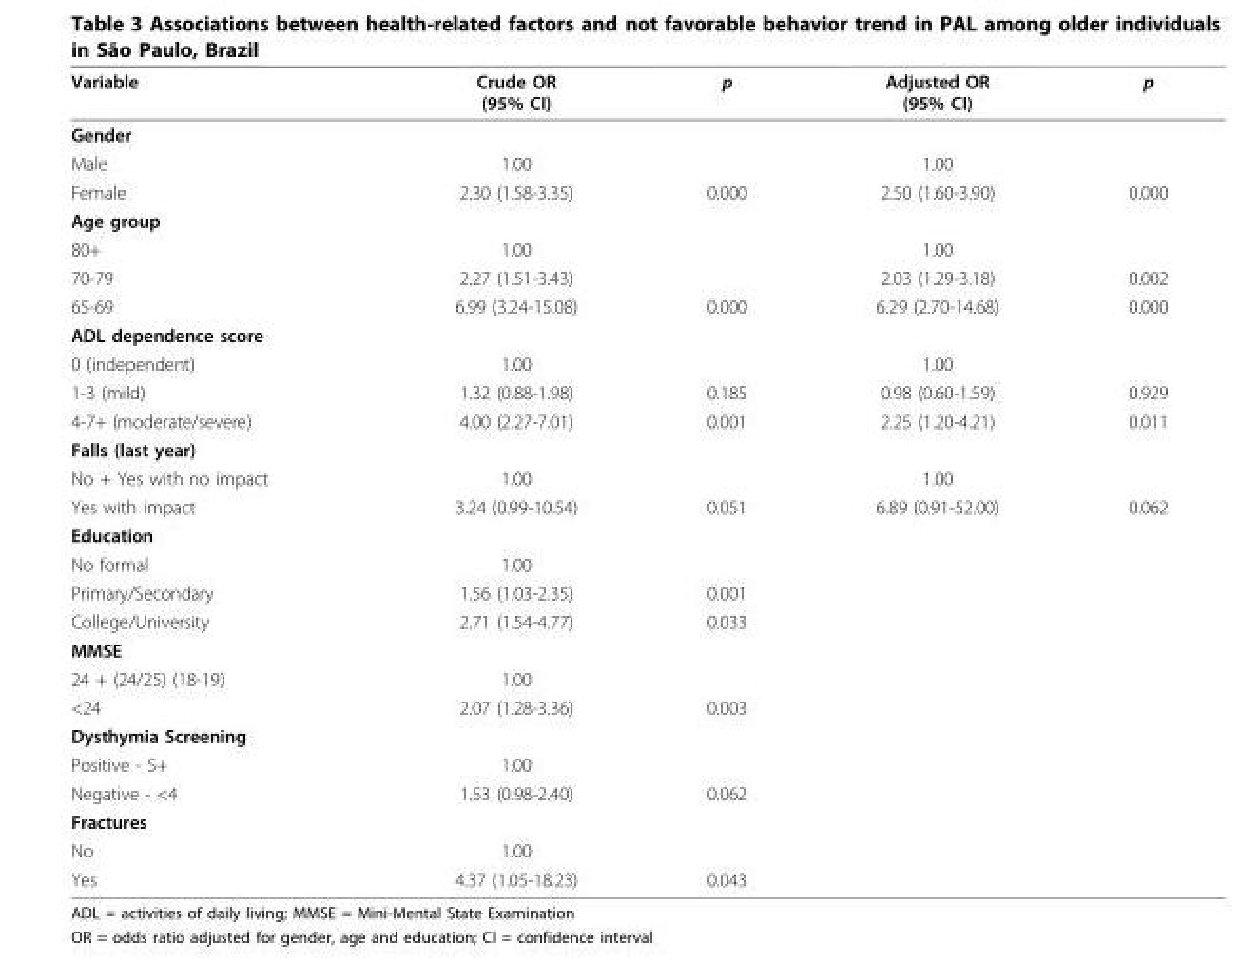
<table><thead><tr><td>Variable</td><td>Crude OR (95% CI)</td><td>p</td><td>Adjusted OR (95% CI)</td><td>p</td></tr></thead><tbody><tr><td colspan="5">Gender</td></tr><tr><td>Male</td><td>1.00</td><td></td><td>1.00</td><td></td></tr><tr><td>Female</td><td>2.30 (1.58-3.35)</td><td>0.000</td><td>2.50 (1.60-3.90)</td><td>0.000</td></tr><tr><td colspan="5">Age group</td></tr><tr><td>80+</td><td>1.00</td><td></td><td>1.00</td><td></td></tr><tr><td>70-79</td><td>2.27 (1.51-3.43)</td><td></td><td>2.03 (1.29-3.18)</td><td>0.002</td></tr><tr><td>65-69</td><td>6.99 (3.24-15.08)</td><td>0.000</td><td>6.29 (2.70-14.68)</td><td>0.000</td></tr><tr><td colspan="5">ADL dependence score</td></tr><tr><td>0 (independent)</td><td>1.00</td><td></td><td>1.00</td><td></td></tr><tr><td>1-3 (mild)</td><td>1.32 (0.88-1.98)</td><td>0.185</td><td>0.98 (0.60-1.59)</td><td>0.929</td></tr><tr><td>4-7+ (moderate/severe)</td><td>4.00 (2.27-7.01)</td><td>0.001</td><td>2.25 (1.20-4.21)</td><td>0.011</td></tr><tr><td colspan="5">Falls (last year)</td></tr><tr><td>No + Yes with no impact</td><td>1.00</td><td></td><td>1.00</td><td></td></tr><tr><td>Yes with impact</td><td>3.24 (0.99-10.54)</td><td>0.051</td><td>6.89 (0.91-52.00)</td><td>0.062</td></tr><tr><td colspan="5">Education</td></tr><tr><td>No formal</td><td>1.00</td><td></td><td></td><td></td></tr><tr><td>Primary/Secondary</td><td>1.56 (1.03-2.35)</td><td>0.001</td><td></td><td></td></tr><tr><td>College/University</td><td>2.71 (1.54-4.77)</td><td>0.033</td><td></td><td></td></tr><tr><td colspan="5">MMSE</td></tr><tr><td>24 + (24/25) (18-19)</td><td>1.00</td><td></td><td></td><td></td></tr><tr><td>&lt;24</td><td>2.07 (1.28-3.36)</td><td>0.003</td><td></td><td></td></tr><tr><td colspan="5">Dysthymia Screening</td></tr><tr><td>Positive - 5+</td><td>1.00</td><td></td><td></td><td></td></tr><tr><td>Negative - &lt;4</td><td>1.53 (0.98-2.40)</td><td>0.062</td><td></td><td></td></tr><tr><td colspan="5">Fractures</td></tr><tr><td>No</td><td>1.00</td><td></td><td></td><td></td></tr><tr><td>Yes</td><td>4.37 (1.05-18.23)</td><td>0.043</td><td></td><td></td></tr></tbody></table>